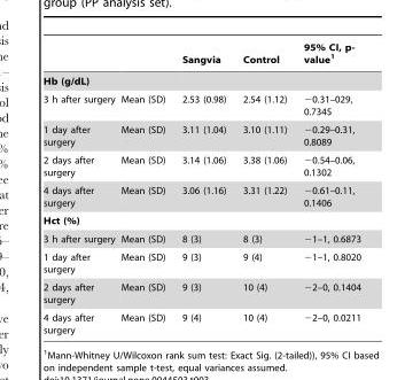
<table><thead><tr><td></td><td></td><td>Sangvia</td><td>Control</td><td>95% CI, p- value<sup>1</sup></td></tr></thead><tbody><tr><td colspan="5">Hb (g/dL)</td></tr><tr><td>3 h after surgery</td><td>Mean (SD)</td><td>2.53 (0.98)</td><td>2.54 (1.12)</td><td>−0.31–029, 0.7345</td></tr><tr><td>1 day after surgery</td><td>Mean (SD)</td><td>3.11 (1.04)</td><td>3.10 (1.11)</td><td>−0.29–0.31, 0.8089</td></tr><tr><td>2 days after surgery</td><td>Mean (SD)</td><td>3.14 (1.06)</td><td>3.38 (1.06)</td><td>−0.54–0.06, 0.1302</td></tr><tr><td>4 days after surgery</td><td>Mean (SD)</td><td>3.06 (1.16)</td><td>3.31 (1.22)</td><td>−0.61–0.11, 0.1406</td></tr><tr><td colspan="5">Hct (%)</td></tr><tr><td>3 h after surgery</td><td>Mean (SD)</td><td>8 (3)</td><td>8 (3)</td><td>−1–1, 0.6873</td></tr><tr><td>1 day after surgery</td><td>Mean (SD)</td><td>9 (3)</td><td>9 (4)</td><td>−1–1, 0.8020</td></tr><tr><td>2 days after surgery</td><td>Mean (SD)</td><td>9 (3)</td><td>10 (4)</td><td>−2–0, 0.1404</td></tr><tr><td>4 days after surgery</td><td>Mean (SD)</td><td>9 (4)</td><td>10 (4)</td><td>−2–0, 0.0211</td></tr></tbody></table>